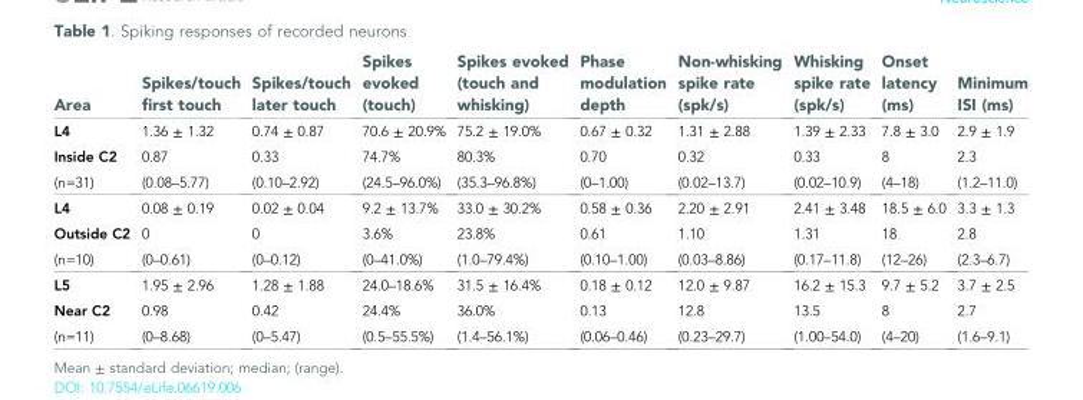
<table><thead><tr><td>Area</td><td>Spikes/touch first touch</td><td>Spikes/touch later touch</td><td>Spikes evoked (touch)</td><td>Spikes evoked (touch and whisking)</td><td>Phase modulation depth</td><td>Non-whisking spike rate (spk/s)</td><td>Whisking spike rate (spk/s)</td><td>Onset latency (ms)</td><td>Minimum ISI (ms)</td></tr></thead><tbody><tr><td>L4</td><td>1.36 ± 1.32</td><td>0.74 ± 0.87</td><td>70.6 ± 20.9%</td><td>75.2 ± 19.0%</td><td>0.67 ± 0.32</td><td>1.31 ± 2.88</td><td>1.39 ± 2.33</td><td>7.8 ± 3.0</td><td>2.9 ± 1.9</td></tr><tr><td>Inside C2</td><td>0.87</td><td>0.33</td><td>74.7%</td><td>80.3%</td><td>0.70</td><td>0.32</td><td>0.33</td><td>8</td><td>2.3</td></tr><tr><td>(n=31)</td><td>(0.08–5.77)</td><td>(0.10–2.92)</td><td>(24.5–96.0%)</td><td>(35.3–96.8%)</td><td>(0–1.00)</td><td>(0.02–13.7)</td><td>(0.02–10.9)</td><td>(4–18)</td><td>(1.2–11.0)</td></tr><tr><td>L4</td><td>0.08 ± 0.19</td><td>0.02 ± 0.04</td><td>9.2 ± 13.7%</td><td>33.0 ± 30.2%</td><td>0.58 ± 0.36</td><td>2.20 ± 2.91</td><td>2.41 ± 3.48</td><td>18.5 ± 6.0</td><td>3.3 ± 1.3</td></tr><tr><td>Outside C2</td><td>0</td><td>0</td><td>3.6%</td><td>23.8%</td><td>0.61</td><td>1.10</td><td>1.31</td><td>18</td><td>2.8</td></tr><tr><td>(n=10)</td><td>(0–0.61)</td><td>(0–0.12)</td><td>(0–41.0%)</td><td>(1.0–79.4%)</td><td>(0.10–1.00)</td><td>(0.03–8.86)</td><td>(0.17–11.8)</td><td>(12–26)</td><td>(2.3–6.7)</td></tr><tr><td>L5</td><td>1.95 ± 2.96</td><td>1.28 ± 1.88</td><td>24.0–18.6%</td><td>31.5 ± 16.4%</td><td>0.18 ± 0.12</td><td>12.0 ± 9.87</td><td>16.2 ± 15.3</td><td>9.7 ± 5.2</td><td>3.7 ± 2.5</td></tr><tr><td>Near C2</td><td>0.98</td><td>0.42</td><td>24.4%</td><td>36.0%</td><td>0.13</td><td>12.8</td><td>13.5</td><td>8</td><td>2.7</td></tr><tr><td>(n=11)</td><td>(0–8.68)</td><td>(0–5.47)</td><td>(0.5–55.5%)</td><td>(1.4–56.1%)</td><td>(0.06–0.46)</td><td>(0.23–29.7)</td><td>(1.00–54.0)</td><td>(4–20)</td><td>(1.6–9.1)</td></tr></tbody></table>